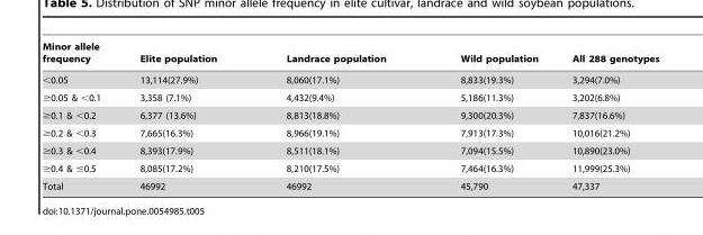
<table><thead><tr><td>Minor allele frequency</td><td>Elite population</td><td>Landrace population</td><td>Wild population</td><td>All 288 genotypes</td></tr></thead><tbody><tr><td>&lt;0.05</td><td>13,114(27.9%)</td><td>8,060(17.1%)</td><td>8,833(19.3%)</td><td>3,294(7.0%)</td></tr><tr><td>≥0.05 &amp; &lt;0.1</td><td>3,358 (7.1%)</td><td>4,432(9.4%)</td><td>5,186(11.3%)</td><td>3,202(6.8%)</td></tr><tr><td>≥0.1 &amp; &lt;0.2</td><td>6,377 (13.6%)</td><td>8,813(18.8%)</td><td>9,300(20.3%)</td><td>7,837(16.6%)</td></tr><tr><td>≥0.2 &amp; &lt;0.3</td><td>7,665(16.3%)</td><td>8,966(19.1%)</td><td>7,913(17.3%)</td><td>10,016(21.2%)</td></tr><tr><td>≥0.3 &amp; &lt;0.4</td><td>8,393(17.9%)</td><td>8,511(18.1%)</td><td>7,094(15.5%)</td><td>10,890(23.0%)</td></tr><tr><td>≥0.4 &amp; ≤0.5</td><td>8,085(17.2%)</td><td>8,210(17.5%)</td><td>7,464(16.3%)</td><td>11,999(25.3%)</td></tr><tr><td>Total</td><td>46992</td><td>46992</td><td>45,790</td><td>47,337</td></tr></tbody></table>